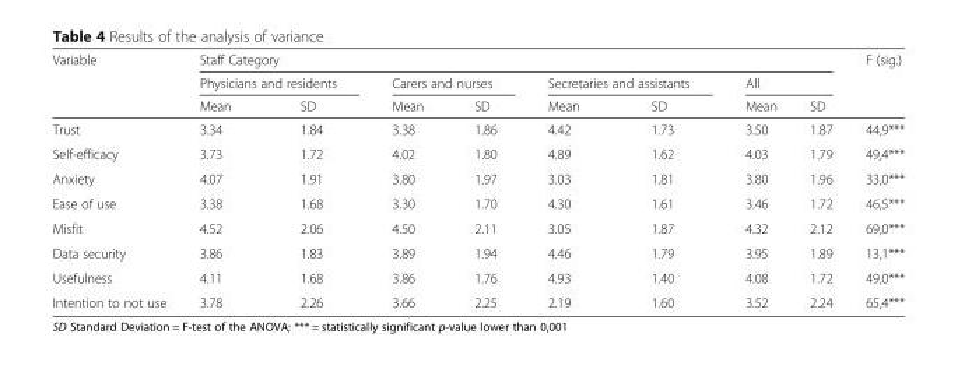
<table><thead><tr><td rowspan="3">Variable</td><td colspan="8">Staff Category</td><td rowspan="3">F (sig.)</td></tr><tr><td colspan="2">Physicians and residents</td><td colspan="2">Carers and nurses</td><td colspan="2">Secretaries and assistants</td><td colspan="2">All</td></tr><tr><td>Mean</td><td>SD</td><td>Mean</td><td>SD</td><td>Mean</td><td>SD</td><td>Mean</td><td>SD</td></tr></thead><tbody><tr><td>Trust</td><td>3.34</td><td>1.84</td><td>3.38</td><td>1.86</td><td>4.42</td><td>1.73</td><td>3.50</td><td>1.87</td><td>44,9***</td></tr><tr><td>Self-efficacy</td><td>3.73</td><td>1.72</td><td>4.02</td><td>1.80</td><td>4.89</td><td>1.62</td><td>4.03</td><td>1.79</td><td>49,4***</td></tr><tr><td>Anxiety</td><td>4.07</td><td>1.91</td><td>3.80</td><td>1.97</td><td>3.03</td><td>1.81</td><td>3.80</td><td>1.96</td><td>33,0***</td></tr><tr><td>Ease of use</td><td>3.38</td><td>1.68</td><td>3.30</td><td>1.70</td><td>4.30</td><td>1.61</td><td>3.46</td><td>1.72</td><td>46,5***</td></tr><tr><td>Misfit</td><td>4.52</td><td>2.06</td><td>4.50</td><td>2.11</td><td>3.05</td><td>1.87</td><td>4.32</td><td>2.12</td><td>69,0***</td></tr><tr><td>Data security</td><td>3.86</td><td>1.83</td><td>3.89</td><td>1.94</td><td>4.46</td><td>1.79</td><td>3.95</td><td>1.89</td><td>13,1***</td></tr><tr><td>Usefulness</td><td>4.11</td><td>1.68</td><td>3.86</td><td>1.76</td><td>4.93</td><td>1.40</td><td>4.08</td><td>1.72</td><td>49,0***</td></tr><tr><td>Intention to not use</td><td>3.78</td><td>2.26</td><td>3.66</td><td>2.25</td><td>2.19</td><td>1.60</td><td>3.52</td><td>2.24</td><td>65,4***</td></tr></tbody></table>